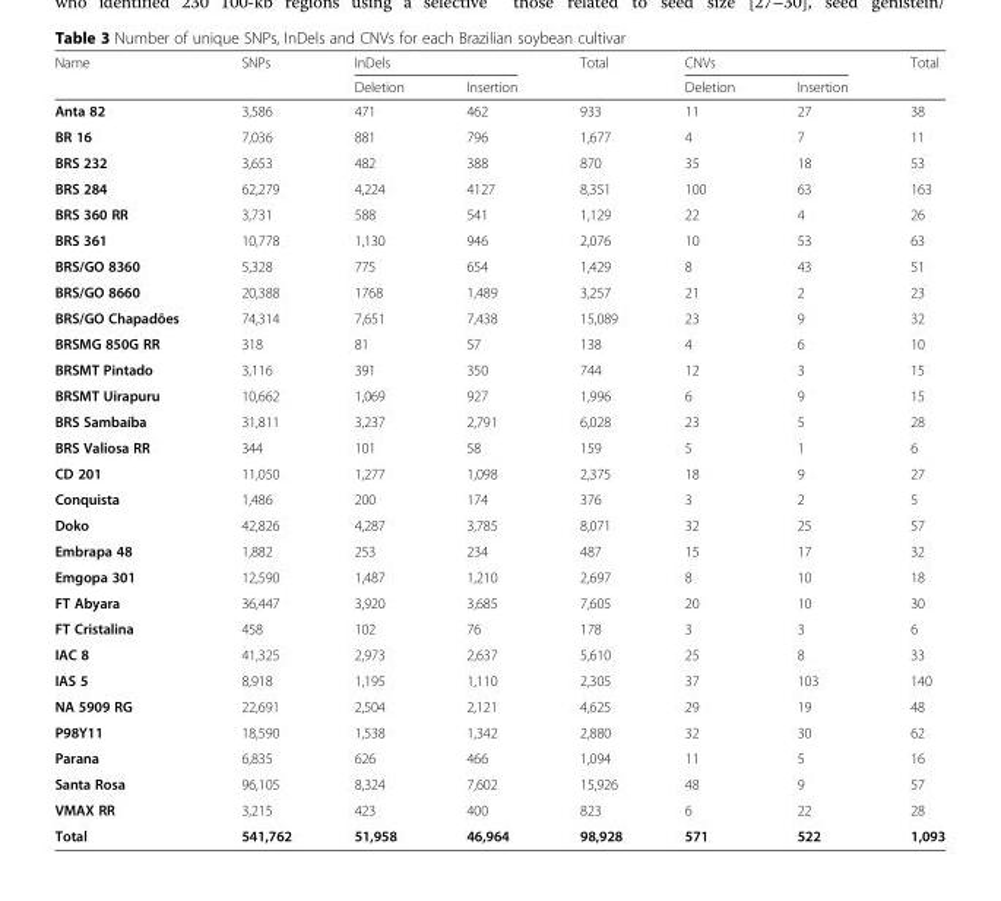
<table><thead><tr><td rowspan="2">Name</td><td rowspan="2">SNPs</td><td colspan="2">InDels</td><td rowspan="2">Total</td><td colspan="2">CNVs</td><td rowspan="2">Total</td></tr><tr><td>Deletion</td><td>Insertion</td><td>Deletion</td><td>Insertion</td></tr></thead><tbody><tr><td>Anta 82</td><td>3,586</td><td>471</td><td>462</td><td>933</td><td>11</td><td>27</td><td>38</td></tr><tr><td>BR 16</td><td>7,036</td><td>881</td><td>796</td><td>1,677</td><td>4</td><td>7</td><td>11</td></tr><tr><td>BRS 232</td><td>3,653</td><td>482</td><td>388</td><td>870</td><td>35</td><td>18</td><td>53</td></tr><tr><td>BRS 284</td><td>62,279</td><td>4,224</td><td>4127</td><td>8,351</td><td>100</td><td>63</td><td>163</td></tr><tr><td>BRS 360 RR</td><td>3,731</td><td>588</td><td>541</td><td>1,129</td><td>22</td><td>4</td><td>26</td></tr><tr><td>BRS 361</td><td>10,778</td><td>1,130</td><td>946</td><td>2,076</td><td>10</td><td>53</td><td>63</td></tr><tr><td>BRS/GO 8360</td><td>5,328</td><td>775</td><td>654</td><td>1,429</td><td>8</td><td>43</td><td>51</td></tr><tr><td>BRS/GO 8660</td><td>20,388</td><td>1768</td><td>1,489</td><td>3,257</td><td>21</td><td>2</td><td>23</td></tr><tr><td>BRS/GO Chapadões</td><td>74,314</td><td>7,651</td><td>7,438</td><td>15,089</td><td>23</td><td>9</td><td>32</td></tr><tr><td>BRSMG 850G RR</td><td>318</td><td>81</td><td>57</td><td>138</td><td>4</td><td>6</td><td>10</td></tr><tr><td>BRSMT Pintado</td><td>3,116</td><td>391</td><td>350</td><td>744</td><td>12</td><td>3</td><td>15</td></tr><tr><td>BRSMT Uirapuru</td><td>10,662</td><td>1,069</td><td>927</td><td>1,996</td><td>6</td><td>9</td><td>15</td></tr><tr><td>BRS Sambaíba</td><td>31,811</td><td>3,237</td><td>2,791</td><td>6,028</td><td>23</td><td>5</td><td>28</td></tr><tr><td>BRS Valiosa RR</td><td>344</td><td>101</td><td>58</td><td>159</td><td>5</td><td>1</td><td>6</td></tr><tr><td>CD 201</td><td>11,050</td><td>1,277</td><td>1,098</td><td>2,375</td><td>18</td><td>9</td><td>27</td></tr><tr><td>Conquista</td><td>1,486</td><td>200</td><td>174</td><td>376</td><td>3</td><td>2</td><td>5</td></tr><tr><td>Doko</td><td>42,826</td><td>4,287</td><td>3,785</td><td>8,071</td><td>32</td><td>25</td><td>57</td></tr><tr><td>Embrapa 48</td><td>1,882</td><td>253</td><td>234</td><td>487</td><td>15</td><td>17</td><td>32</td></tr><tr><td>Emgopa 301</td><td>12,590</td><td>1,487</td><td>1,210</td><td>2,697</td><td>8</td><td>10</td><td>18</td></tr><tr><td>FT Abyara</td><td>36,447</td><td>3,920</td><td>3,685</td><td>7,605</td><td>20</td><td>10</td><td>30</td></tr><tr><td>FT Cristalina</td><td>458</td><td>102</td><td>76</td><td>178</td><td>3</td><td>3</td><td>6</td></tr><tr><td>IAC 8</td><td>41,325</td><td>2,973</td><td>2,637</td><td>5,610</td><td>25</td><td>8</td><td>33</td></tr><tr><td>IAS 5</td><td>8,918</td><td>1,195</td><td>1,110</td><td>2,305</td><td>37</td><td>103</td><td>140</td></tr><tr><td>NA 5909 RG</td><td>22,691</td><td>2,504</td><td>2,121</td><td>4,625</td><td>29</td><td>19</td><td>48</td></tr><tr><td>P98Y11</td><td>18,590</td><td>1,538</td><td>1,342</td><td>2,880</td><td>32</td><td>30</td><td>62</td></tr><tr><td>Parana</td><td>6,835</td><td>626</td><td>466</td><td>1,094</td><td>11</td><td>5</td><td>16</td></tr><tr><td>Santa Rosa</td><td>96,105</td><td>8,324</td><td>7,602</td><td>15,926</td><td>48</td><td>9</td><td>57</td></tr><tr><td>VMAX RR</td><td>3,215</td><td>423</td><td>400</td><td>823</td><td>6</td><td>22</td><td>28</td></tr><tr><td>Total</td><td>541,762</td><td>51,958</td><td>46,964</td><td>98,928</td><td>571</td><td>522</td><td>1,093</td></tr></tbody></table>